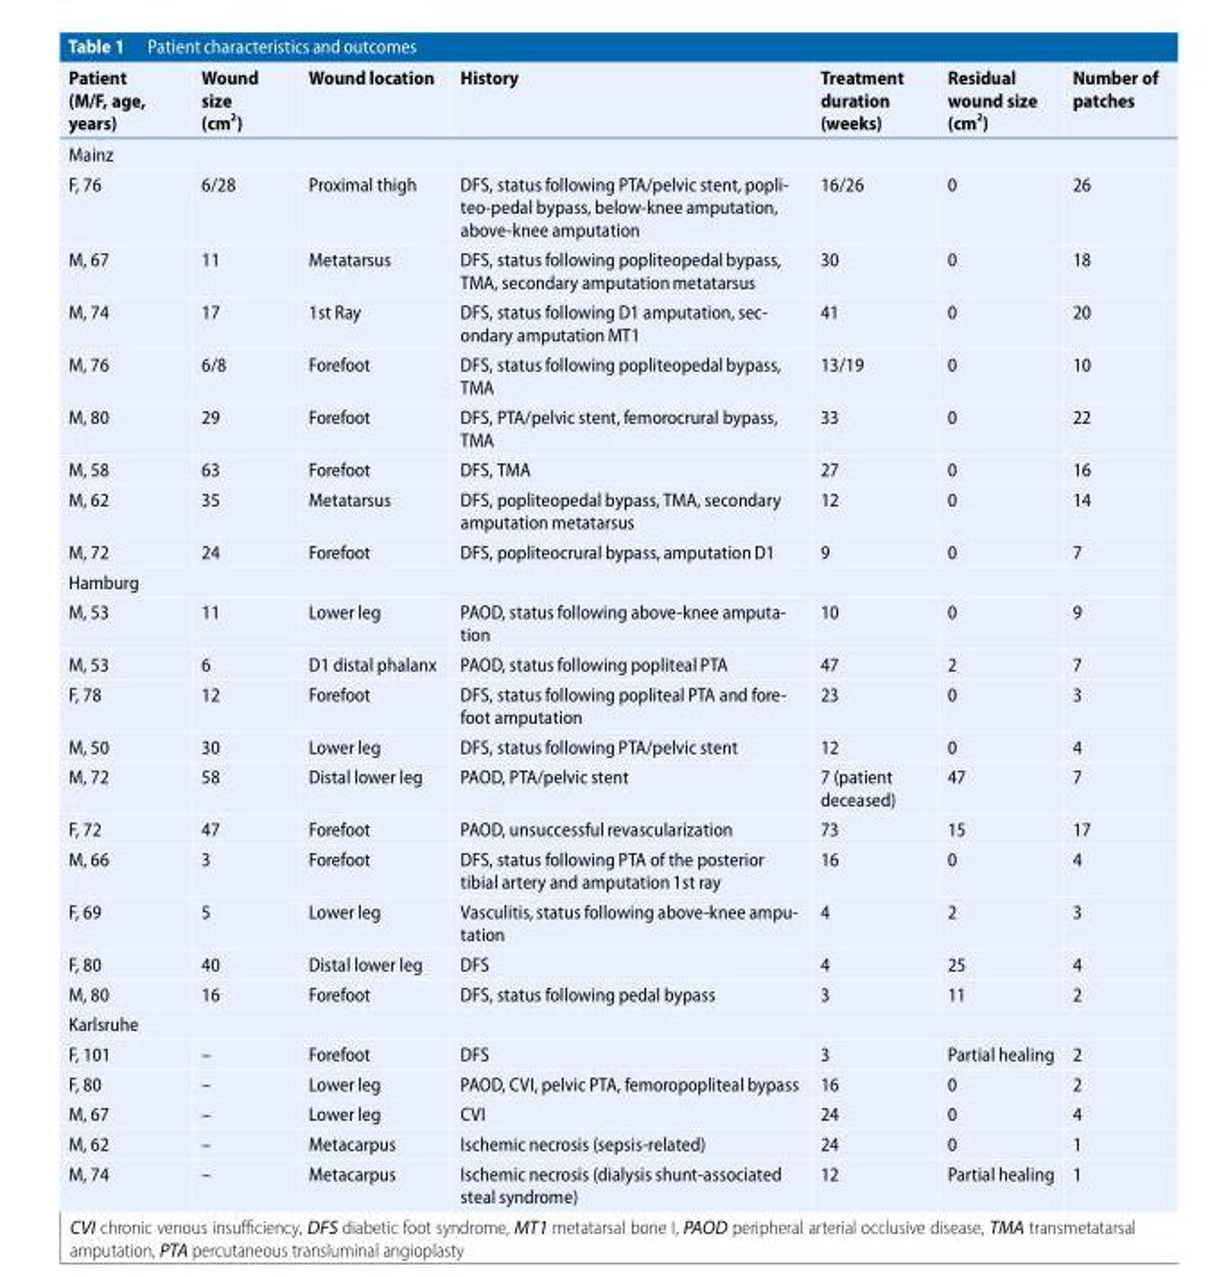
<table><thead><tr><td>Patient (M/F, age, years)</td><td>Wound size (cm<sup>2</sup>)</td><td>Wound location</td><td>History</td><td>Treatment duration (weeks)</td><td>Residual wound size (cm<sup>2</sup>)</td><td>Number of patches</td></tr></thead><tbody><tr><td colspan="7">Mainz</td></tr><tr><td>F, 76</td><td>6/28</td><td>Proximal thigh</td><td>DFS, status following PTA/pelvic stent, popli- teo-pedal bypass, below-knee amputation, above-knee amputation</td><td>16/26</td><td>0</td><td>26</td></tr><tr><td>M, 67</td><td>11</td><td>Metatarsus</td><td>DFS, status following popliteopedal bypass, TMA, secondary amputation metatarsus</td><td>30</td><td>0</td><td>18</td></tr><tr><td>M, 74</td><td>17</td><td>1st Ray</td><td>DFS, status following D1 amputation, sec- ondary amputation MT1</td><td>41</td><td>0</td><td>20</td></tr><tr><td>M, 76</td><td>6/8</td><td>Forefoot</td><td>DFS, status following popliteopedal bypass, TMA</td><td>13/19</td><td>0</td><td>10</td></tr><tr><td>M, 80</td><td>29</td><td>Forefoot</td><td>DFS, PTA/pelvic stent, femorocrural bypass, TMA</td><td>33</td><td>0</td><td>22</td></tr><tr><td>M, 58</td><td>63</td><td>Forefoot</td><td>DFS, TMA</td><td>27</td><td>0</td><td>16</td></tr><tr><td>M, 62</td><td>35</td><td>Metatarsus</td><td>DFS, popliteopedal bypass, TMA, secondary amputation metatarsus</td><td>12</td><td>0</td><td>14</td></tr><tr><td>M, 72</td><td>24</td><td>Forefoot</td><td>DFS, popliteocrural bypass, amputation D1</td><td>9</td><td>0</td><td>7</td></tr><tr><td colspan="7">Hamburg</td></tr><tr><td>M, 53</td><td>11</td><td>Lower leg</td><td>PAOD, status following above-knee amputa- tion</td><td>10</td><td>0</td><td>9</td></tr><tr><td>M, 53</td><td>6</td><td>D1 distal phalanx</td><td>PAOD, status following popliteal PTA</td><td>47</td><td>2</td><td>7</td></tr><tr><td>F, 78</td><td>12</td><td>Forefoot</td><td>DFS, status following popliteal PTA and fore- foot amputation</td><td>23</td><td>0</td><td>3</td></tr><tr><td>M, 50</td><td>30</td><td>Lower leg</td><td>DFS, status following PTA/pelvic stent</td><td>12</td><td>0</td><td>4</td></tr><tr><td>M, 72</td><td>58</td><td>Distal lower leg</td><td>PAOD, PTA/pelvic stent</td><td>7 (patient deceased)</td><td>47</td><td>7</td></tr><tr><td>F, 72</td><td>47</td><td>Forefoot</td><td>PAOD, unsuccessful revascularization</td><td>73</td><td>15</td><td>17</td></tr><tr><td>M, 66</td><td>3</td><td>Forefoot</td><td>DFS, status following PTA of the posterior tibial artery and amputation 1st ray</td><td>16</td><td>0</td><td>4</td></tr><tr><td>F, 69</td><td>5</td><td>Lower leg</td><td>Vasculitis,status following above-knee ampu- tation</td><td>4</td><td>2</td><td>3</td></tr><tr><td>F, 80</td><td>40</td><td>Distal lower leg</td><td>DFS</td><td>4</td><td>25</td><td>4</td></tr><tr><td>M, 80</td><td>16</td><td>Forefoot</td><td>DFS, status following pedal bypass</td><td>3</td><td>11</td><td>2</td></tr><tr><td colspan="7">Karlsruhe</td></tr><tr><td>F, 101</td><td>–</td><td>Forefoot</td><td>DFS</td><td>3</td><td>Partial healing</td><td>2</td></tr><tr><td>F, 80</td><td>–</td><td>Lower leg</td><td>PAOD, CVI, pelvic PTA, femoropopliteal bypass</td><td>16</td><td>0</td><td>2</td></tr><tr><td>M, 67</td><td>–</td><td>Lower leg</td><td>CVI</td><td>24</td><td>0</td><td>4</td></tr><tr><td>M, 62</td><td>–</td><td>Metacarpus</td><td>Ischemic necrosis (sepsis-related)</td><td>24</td><td>0</td><td>1</td></tr><tr><td>M, 74</td><td>–</td><td>Metacarpus</td><td>Ischemic necrosis (dialysis shunt-associated steal syndrome)</td><td>12</td><td>Partial healing</td><td>1</td></tr></tbody></table>